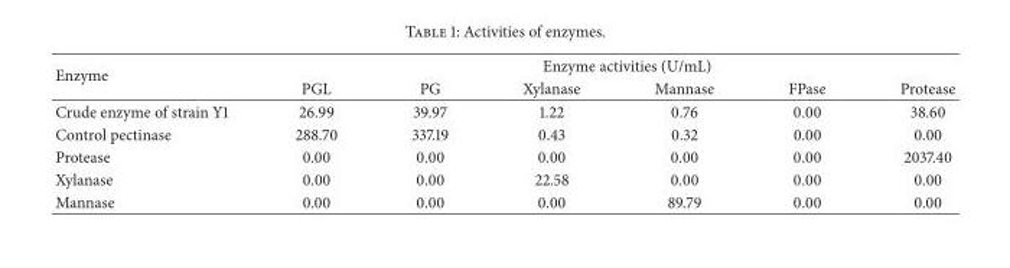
<table><thead><tr><td rowspan="2">Enzyme</td><td colspan="6">Enzyme activities (U/mL)</td></tr><tr><td>PGL</td><td>PG</td><td>Xylanase</td><td>Mannase</td><td>FPase</td><td>Protease</td></tr></thead><tbody><tr><td>Crude enzyme of strain Y1</td><td>26.99</td><td>39.97</td><td>1.22</td><td>0.76</td><td>0.00</td><td>38.60</td></tr><tr><td>Control pectinase</td><td>288.70</td><td>337.19</td><td>0.43</td><td>0.32</td><td>0.00</td><td>0.00</td></tr><tr><td>Protease</td><td>0.00</td><td>0.00</td><td>0.00</td><td>0.00</td><td>0.00</td><td>2037.40</td></tr><tr><td>Xylanase</td><td>0.00</td><td>0.00</td><td>22.58</td><td>0.00</td><td>0.00</td><td>0.00</td></tr><tr><td>Mannase</td><td>0.00</td><td>0.00</td><td>0.00</td><td>89.79</td><td>0.00</td><td>0.00</td></tr></tbody></table>